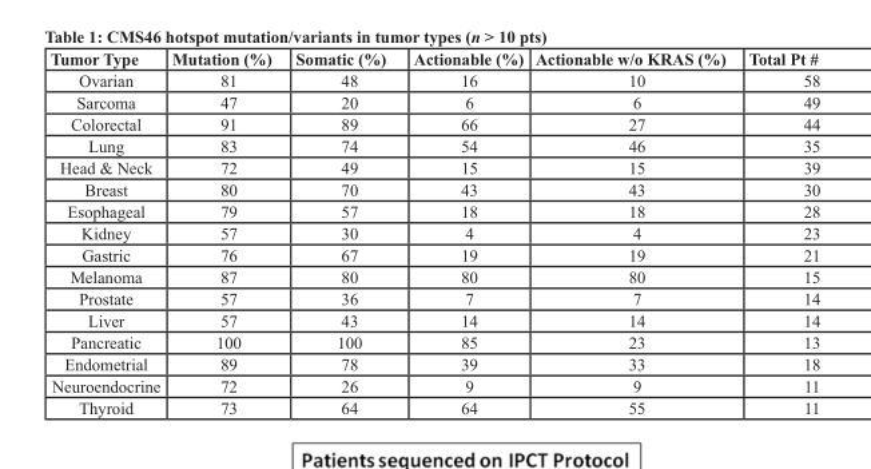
<table><thead><tr><td>Tumor Type</td><td>Mutation (%)</td><td>Somatic (%)</td><td>Actionable (%)</td><td>Actionable w/o KRAS (%)</td><td>Total Pt #</td></tr></thead><tbody><tr><td>Ovarian</td><td>81</td><td>48</td><td>16</td><td>10</td><td>58</td></tr><tr><td>Sarcoma</td><td>47</td><td>20</td><td>6</td><td>6</td><td>49</td></tr><tr><td>Colorectal</td><td>91</td><td>89</td><td>66</td><td>27</td><td>44</td></tr><tr><td>Lung</td><td>83</td><td>74</td><td>54</td><td>46</td><td>35</td></tr><tr><td>Head &amp; Neck</td><td>72</td><td>49</td><td>15</td><td>15</td><td>39</td></tr><tr><td>Breast</td><td>80</td><td>70</td><td>43</td><td>43</td><td>30</td></tr><tr><td>Esophageal</td><td>79</td><td>57</td><td>18</td><td>18</td><td>28</td></tr><tr><td>Kidney</td><td>57</td><td>30</td><td>4</td><td>4</td><td>23</td></tr><tr><td>Gastric</td><td>76</td><td>67</td><td>19</td><td>19</td><td>21</td></tr><tr><td>Melanoma</td><td>87</td><td>80</td><td>80</td><td>80</td><td>15</td></tr><tr><td>Prostate</td><td>57</td><td>36</td><td>7</td><td>7</td><td>14</td></tr><tr><td>Liver</td><td>57</td><td>43</td><td>14</td><td>14</td><td>14</td></tr><tr><td>Pancreatic</td><td>100</td><td>100</td><td>85</td><td>23</td><td>13</td></tr><tr><td>Endometrial</td><td>89</td><td>78</td><td>39</td><td>33</td><td>18</td></tr><tr><td>Neuroendocrine</td><td>72</td><td>26</td><td>9</td><td>9</td><td>11</td></tr><tr><td>Thyroid</td><td>73</td><td>64</td><td>64</td><td>55</td><td>11</td></tr></tbody></table>